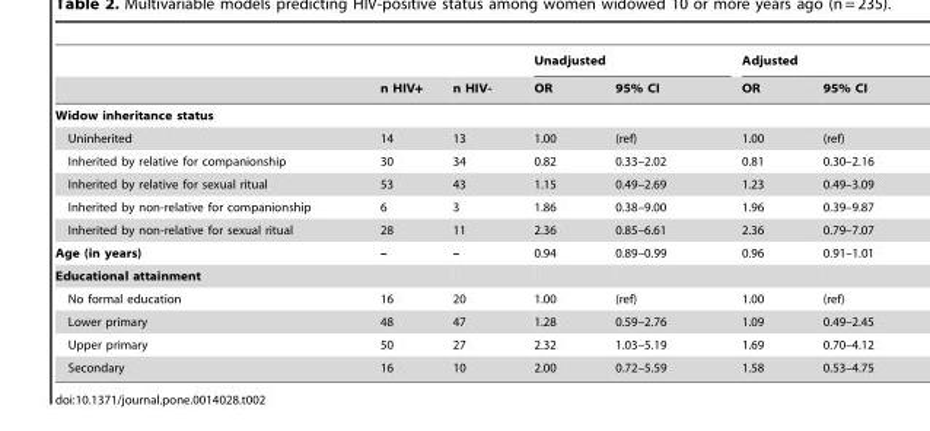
<table><thead><tr><td rowspan="2"></td><td rowspan="2">n HIV+</td><td rowspan="2">n HIV-</td><td colspan="2">Unadjusted</td><td colspan="2">Adjusted</td></tr><tr><td>OR</td><td>95% CI</td><td>OR</td><td>95% CI</td></tr></thead><tbody><tr><td colspan="7">Widow inheritance status</td></tr><tr><td>Uninherited</td><td>14</td><td>13</td><td>1.00</td><td>(ref)</td><td>1.00</td><td>(ref)</td></tr><tr><td>Inherited by relative for companionship</td><td>30</td><td>34</td><td>0.82</td><td>0.33–2.02</td><td>0.81</td><td>0.30–2.16</td></tr><tr><td>Inherited by relative for sexual ritual</td><td>53</td><td>43</td><td>1.15</td><td>0.49–2.69</td><td>1.23</td><td>0.49–3.09</td></tr><tr><td>Inherited by non-relative for companionship</td><td>6</td><td>3</td><td>1.86</td><td>0.38–9.00</td><td>1.96</td><td>0.39–9.87</td></tr><tr><td>Inherited by non-relative for sexual ritual</td><td>28</td><td>11</td><td>2.36</td><td>0.85–6.61</td><td>2.36</td><td>0.79–7.07</td></tr><tr><td>Age (in years)</td><td>–</td><td>–</td><td>0.94</td><td>0.89–0.99</td><td>0.96</td><td>0.91–1.01</td></tr><tr><td colspan="7">Educational attainment</td></tr><tr><td>No formal education</td><td>16</td><td>20</td><td>1.00</td><td>(ref)</td><td>1.00</td><td>(ref)</td></tr><tr><td>Lower primary</td><td>48</td><td>47</td><td>1.28</td><td>0.59–2.76</td><td>1.09</td><td>0.49–2.45</td></tr><tr><td>Upper primary</td><td>50</td><td>27</td><td>2.32</td><td>1.03–5.19</td><td>1.69</td><td>0.70–4.12</td></tr><tr><td>Secondary</td><td>16</td><td>10</td><td>2.00</td><td>0.72–5.59</td><td>1.58</td><td>0.53–4.75</td></tr></tbody></table>